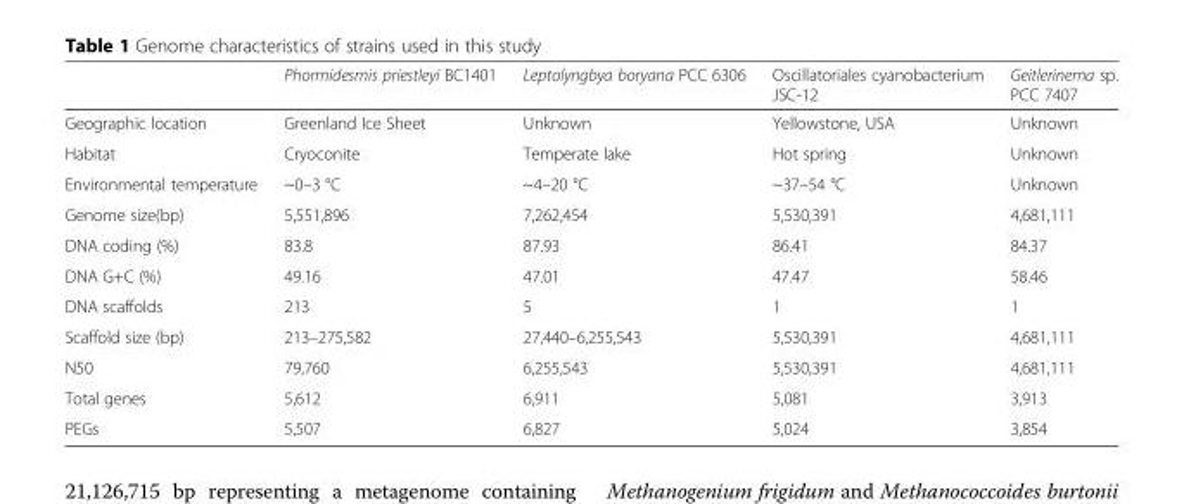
<table><thead><tr><td></td><td>Phormidesmis priestleyi BC1401</td><td>Leptolyngbya boryana PCC 6306</td><td>Oscillatoriales cyanobacterium JSC-12</td><td>Geitlerinema sp. PCC 7407</td></tr></thead><tbody><tr><td>Geographic location</td><td>Greenland Ice Sheet</td><td>Unknown</td><td>Yellowstone, USA</td><td>Unknown</td></tr><tr><td>Habitat</td><td>Cryoconite</td><td>Temperate lake</td><td>Hot spring</td><td>Unknown</td></tr><tr><td>Environmental temperature</td><td>~0–3 °C</td><td>~4–20 °C</td><td>~37–54 °C</td><td>Unknown</td></tr><tr><td>Genome size(bp)</td><td>5,551,896</td><td>7,262,454</td><td>5,530,391</td><td>4,681,111</td></tr><tr><td>DNA coding (%)</td><td>83.8</td><td>87.93</td><td>86.41</td><td>84.37</td></tr><tr><td>DNA G+C (%)</td><td>49.16</td><td>47.01</td><td>47.47</td><td>58.46</td></tr><tr><td>DNA scaffolds</td><td>213</td><td>5</td><td>1</td><td>1</td></tr><tr><td>Scaffold size (bp)</td><td>213–275,582</td><td>27,440–6,255,543</td><td>5,530,391</td><td>4,681,111</td></tr><tr><td>N50</td><td>79,760</td><td>6,255,543</td><td>5,530,391</td><td>4,681,111</td></tr><tr><td>Total genes</td><td>5,612</td><td>6,911</td><td>5,081</td><td>3,913</td></tr><tr><td>PEGs</td><td>5,507</td><td>6,827</td><td>5,024</td><td>3,854</td></tr></tbody></table>